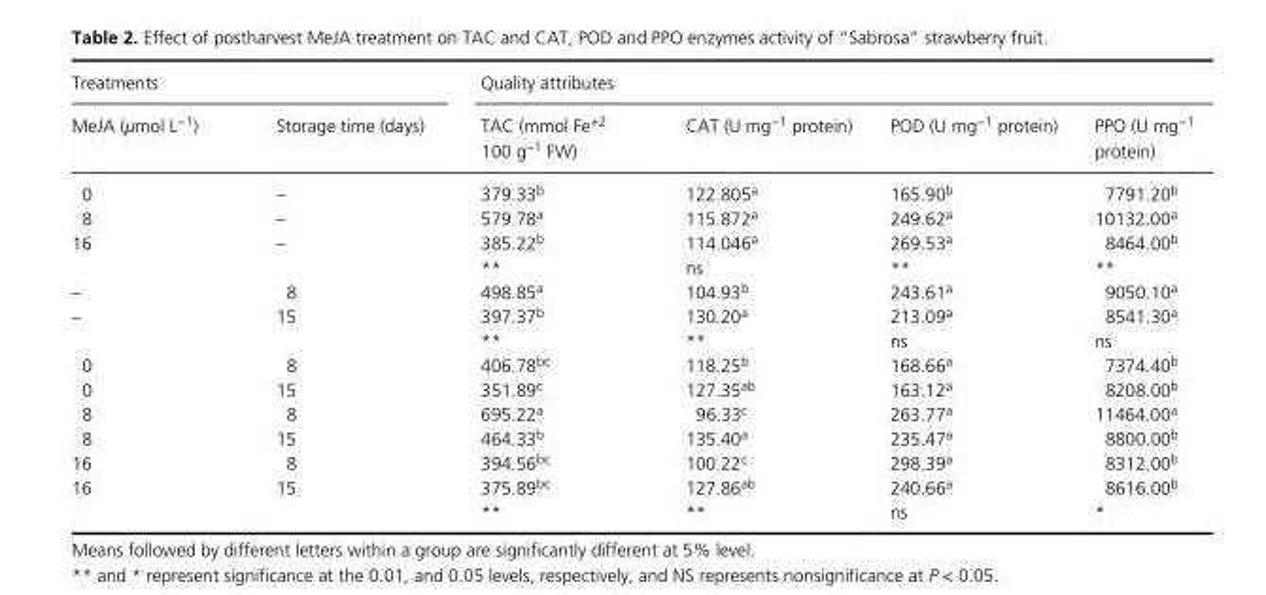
<table><thead><tr><td colspan="2">Treatments</td><td colspan="4">Quality attributes</td></tr><tr><td>MeJA (μmol L<sup>−1</sup>)</td><td>Storage time (days)</td><td>TAC (mmol Fe<sup>+2</sup> 100 g<sup>−1</sup> FW)</td><td>CAT (U mg<sup>−1</sup> protein)</td><td>POD (U mg<sup>−1</sup> protein)</td><td>PPO (U mg<sup>−1</sup> protein)</td></tr></thead><tbody><tr><td>0</td><td>–</td><td>379.33<sup>b</sup></td><td>122.805<sup>a</sup></td><td>165.90<sup>b</sup></td><td>7791.20<sup>b</sup></td></tr><tr><td>8</td><td>–</td><td>579.78<sup>a</sup></td><td>115.872<sup>a</sup></td><td>249.62<sup>a</sup></td><td>10132.00<sup>a</sup></td></tr><tr><td rowspan="2">16</td><td>–</td><td>385.22<sup>b</sup></td><td>114.046<sup>a</sup></td><td>269.53<sup>a</sup></td><td>8464.00<sup>b</sup></td></tr><tr><td></td><td>**</td><td>ns</td><td>**</td><td>**</td></tr><tr><td>–</td><td>8</td><td>498.85<sup>a</sup></td><td>104.93<sup>b</sup></td><td>243.61<sup>a</sup></td><td>9050.10<sup>a</sup></td></tr><tr><td rowspan="2">–</td><td>15</td><td>397.37<sup>b</sup></td><td>130.20<sup>a</sup></td><td>213.09<sup>a</sup></td><td>8541.30<sup>a</sup></td></tr><tr><td></td><td>**</td><td>**</td><td>ns</td><td>ns</td></tr><tr><td>0</td><td>8</td><td>406.78<sup>bc</sup></td><td>118.25<sup>b</sup></td><td>168.66<sup>a</sup></td><td>7374.40<sup>b</sup></td></tr><tr><td>0</td><td>15</td><td>351.89<sup>c</sup></td><td>127.35<sup>ab</sup></td><td>163.12<sup>a</sup></td><td>8208.00<sup>b</sup></td></tr><tr><td>8</td><td>8</td><td>695.22<sup>a</sup></td><td>96.33<sup>c</sup></td><td>263.77<sup>a</sup></td><td>11464.00<sup>a</sup></td></tr><tr><td>8</td><td>15</td><td>464.33<sup>b</sup></td><td>135.40<sup>a</sup></td><td>235.47<sup>a</sup></td><td>8800.00<sup>b</sup></td></tr><tr><td>16</td><td>8</td><td>394.56<sup>bc</sup></td><td>100.22<sup>c</sup></td><td>298.39<sup>a</sup></td><td>8312.00<sup>b</sup></td></tr><tr><td rowspan="2">16</td><td>15</td><td>375.89<sup>bc</sup></td><td>127.86<sup>ab</sup></td><td>240.66<sup>a</sup></td><td>8616.00<sup>b</sup></td></tr><tr><td></td><td>**</td><td>**</td><td>ns</td><td>*</td></tr></tbody></table>